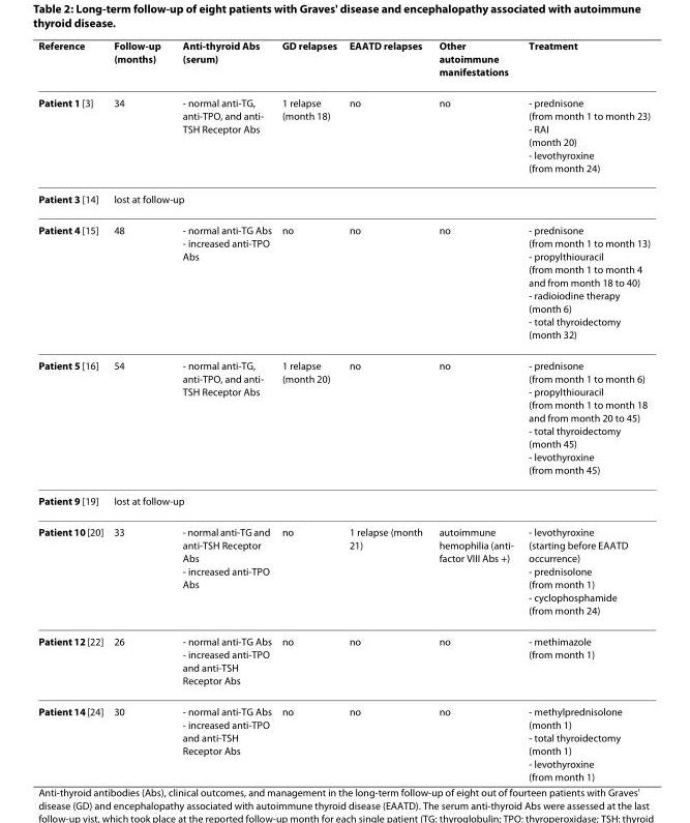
<table><thead><tr><td>Reference</td><td>Follow-up (months)</td><td>Anti-thyroid Abs (serum)</td><td>GD relapses</td><td>EAATD relapses</td><td>Other autoimmune manifestations</td><td>Treatment</td></tr></thead><tbody><tr><td>Patient 1 [3]</td><td>34</td><td>- normal anti-TG, anti-TPO, and anti- TSH Receptor Abs</td><td>1 relapse (month 18)</td><td>no</td><td>no</td><td>- prednisone (from month 1 to month 23) - RAI (month 20) - levothyroxine (from month 24)</td></tr><tr><td>Patient 3 [14]</td><td colspan="6">lost at follow-up</td></tr><tr><td>Patient 4 [15]</td><td>48</td><td>- normal anti-TG Abs - increased anti-TPO Abs</td><td>no</td><td>no</td><td>no</td><td>- prednisone (from month 1 to month 13) - propylthiouracil (from month 1 to month 4 and from month 18 to 40) - radioiodine therapy (month 6) - total thyroidectomy (month 32)</td></tr><tr><td>Patient 5 [16]</td><td>54</td><td>- normal anti-TG, anti-TPO, and anti- TSH Receptor Abs</td><td>1 relapse (month 20)</td><td>no</td><td>no</td><td>- prednisone (from month 1 to month 6) - propylthiouracil (from month 1 to month 18 and from month 20 to 45) - total thyroidectomy (month 45) - levothyroxine (from month 45)</td></tr><tr><td>Patient 9 [19]</td><td colspan="6">lost at follow-up</td></tr><tr><td>Patient 10 [20]</td><td>33</td><td>- normal anti-TG and anti-TSH Receptor Abs - increased anti-TPO Abs</td><td>no</td><td>1 relapse (month 21)</td><td>autoimmune hemophilia (anti- factor VIII Abs +)</td><td>- levothyroxine (starting before EAATD occurrence) - prednisolone (from month 1) - cyclophosphamide (from month 24)</td></tr><tr><td>Patient 12 [22]</td><td>26</td><td>- normal anti-TG Abs - increased anti-TPO and anti-TSH Receptor Abs</td><td>no</td><td>no</td><td>no</td><td>- methimazole (from month 1)</td></tr><tr><td>Patient 14 [24]</td><td>30</td><td>- normal anti-TG Abs - increased anti-TPO and anti-TSH Receptor Abs</td><td>no</td><td>no</td><td>no</td><td>- methylprednisolone (month 1) - total thyroidectomy (month 1) - levothyroxine (from month 1)</td></tr></tbody></table>